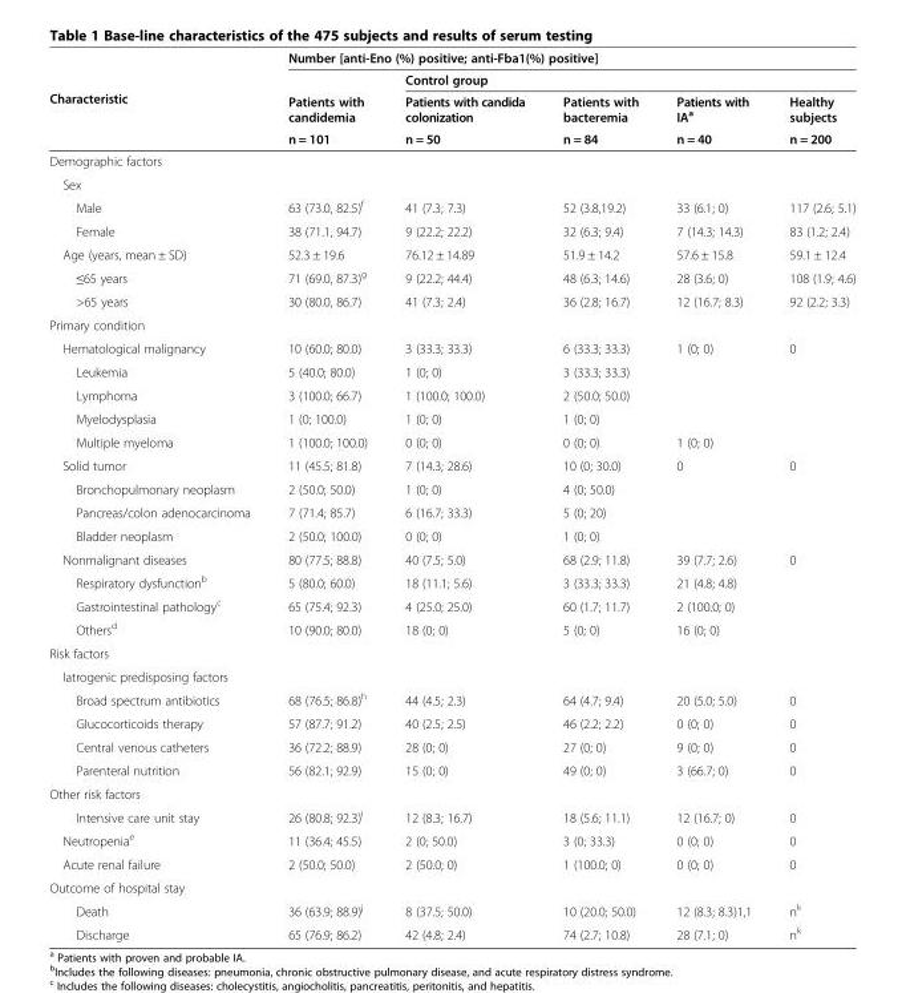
<table><thead><tr><td rowspan="4">Characteristic</td><td colspan="5">Number [anti-Eno (%) positive; anti-Fba1(%) positive]</td></tr><tr><td rowspan="3">Patients with candidemia n = 101</td><td colspan="4">Control group</td></tr><tr><td rowspan="2">Patients with candida colonization n = 50</td><td rowspan="2">Patients with bacteremia n = 84</td><td rowspan="2">Patients with IA<sup>a</sup> n = 40</td><td rowspan="2">Healthy subjects n = 200</td></tr><tr></tr></thead><tbody><tr><td colspan="6">Demographic factors</td></tr><tr><td colspan="6">Sex</td></tr><tr><td>Male</td><td>63 (73.0, 82.5)<sup>f</sup></td><td>41 (7.3; 7.3)</td><td>52 (3.8,19.2)</td><td>33 (6.1; 0)</td><td>117 (2.6; 5.1)</td></tr><tr><td>Female</td><td>38 (71.1, 94.7)</td><td>9 (22.2; 22.2)</td><td>32 (6.3; 9.4)</td><td>7 (14.3; 14.3)</td><td>83 (1.2; 2.4)</td></tr><tr><td>Age (years, mean ± SD)</td><td>52.3 ± 19.6</td><td>76.12 ± 14.89</td><td>51.9 ± 14.2</td><td>57.6 ± 15.8</td><td>59.1 ± 12.4</td></tr><tr><td>≤65 years</td><td>71 (69.0, 87.3)<sup>g</sup></td><td>9 (22.2; 44.4)</td><td>48 (6.3; 14.6)</td><td>28 (3.6; 0)</td><td>108 (1.9; 4.6)</td></tr><tr><td>&gt;65 years</td><td>30 (80.0, 86.7)</td><td>41 (7.3; 2.4)</td><td>36 (2.8; 16.7)</td><td>12 (16.7; 8.3)</td><td>92 (2.2; 3.3)</td></tr><tr><td colspan="6">Primary condition</td></tr><tr><td>Hematological malignancy</td><td>10 (60.0; 80.0)</td><td>3 (33.3; 33.3)</td><td>6 (33.3; 33.3)</td><td>1 (0; 0)</td><td>0</td></tr><tr><td>Leukemia</td><td>5 (40.0; 80.0)</td><td>1 (0; 0)</td><td>3 (33.3; 33.3)</td><td></td><td></td></tr><tr><td>Lymphoma</td><td>3 (100.0; 66.7)</td><td>1 (100.0; 100.0)</td><td>2 (50.0; 50.0)</td><td></td><td></td></tr><tr><td>Myelodysplasia</td><td>1 (0; 100.0)</td><td>1 (0; 0)</td><td>1 (0; 0)</td><td></td><td></td></tr><tr><td>Multiple myeloma</td><td>1 (100.0; 100.0)</td><td>0 (0; 0)</td><td>0 (0; 0)</td><td>1 (0; 0)</td><td></td></tr><tr><td>Solid tumor</td><td>11 (45.5; 81.8)</td><td>7 (14.3; 28.6)</td><td>10 (0; 30.0)</td><td>0</td><td>0</td></tr><tr><td>Bronchopulmonary neoplasm</td><td>2 (50.0; 50.0)</td><td>1 (0; 0)</td><td>4 (0; 50.0)</td><td></td><td></td></tr><tr><td>Pancreas/colon adenocarcinoma</td><td>7 (71.4; 85.7)</td><td>6 (16.7; 33.3)</td><td>5 (0; 20)</td><td></td><td></td></tr><tr><td>Bladder neoplasm</td><td>2 (50.0; 100.0)</td><td>0 (0; 0)</td><td>1 (0; 0)</td><td></td><td></td></tr><tr><td>Nonmalignant diseases</td><td>80 (77.5; 88.8)</td><td>40 (7.5; 5.0)</td><td>68 (2.9; 11.8)</td><td>39 (7.7; 2.6)</td><td>0</td></tr><tr><td>Respiratory dysfunction<sup>b</sup></td><td>5 (80.0; 60.0)</td><td>18 (11.1; 5.6)</td><td>3 (33.3; 33.3)</td><td>21 (4.8; 4.8)</td><td></td></tr><tr><td>Gastrointestinal pathology<sup>c</sup></td><td>65 (75.4; 92.3)</td><td>4 (25.0; 25.0)</td><td>60 (1.7; 11.7)</td><td>2 (100.0; 0)</td><td></td></tr><tr><td>Others<sup>d</sup></td><td>10 (90.0; 80.0)</td><td>18 (0; 0)</td><td>5 (0; 0)</td><td>16 (0; 0)</td><td></td></tr><tr><td colspan="6">Risk factors</td></tr><tr><td colspan="6">Iatrogenic predisposing factors</td></tr><tr><td>Broad spectrum antibiotics</td><td>68 (76.5; 86.8)<sup>h</sup></td><td>44 (4.5; 2.3)</td><td>64 (4.7; 9.4)</td><td>20 (5.0; 5.0)</td><td>0</td></tr><tr><td>Glucocorticoids therapy</td><td>57 (87.7; 91.2)</td><td>40 (2.5; 2.5)</td><td>46 (2.2; 2.2)</td><td>0 (0; 0)</td><td>0</td></tr><tr><td>Central venous catheters</td><td>36 (72.2; 88.9)</td><td>28 (0; 0)</td><td>27 (0; 0)</td><td>9 (0; 0)</td><td>0</td></tr><tr><td>Parenteral nutrition</td><td>56 (82.1; 92.9)</td><td>15 (0; 0)</td><td>49 (0; 0)</td><td>3 (66.7; 0)</td><td>0</td></tr><tr><td colspan="6">Other risk factors</td></tr><tr><td>Intensive care unit stay</td><td>26 (80.8; 92.3)<sup>i</sup></td><td>12 (8.3; 16.7)</td><td>18 (5.6; 11.1)</td><td>12 (16.7; 0)</td><td>0</td></tr><tr><td>Neutropenia<sup>e</sup></td><td>11 (36.4; 45.5)</td><td>2 (0; 50.0)</td><td>3 (0; 33.3)</td><td>0 (0; 0)</td><td>0</td></tr><tr><td>Acute renal failure</td><td>2 (50.0; 50.0)</td><td>2 (50.0; 0)</td><td>1 (100.0; 0)</td><td>0 (0; 0)</td><td>0</td></tr><tr><td colspan="6">Outcome of hospital stay</td></tr><tr><td>Death</td><td>36 (63.9; 88.9)<sup>j</sup></td><td>8 (37.5; 50.0)</td><td>10 (20.0; 50.0)</td><td>12 (8.3; 8.3)1,1</td><td>n<sup>k</sup></td></tr><tr><td>Discharge</td><td>65 (76.9; 86.2)</td><td>42 (4.8; 2.4)</td><td>74 (2.7; 10.8)</td><td>28 (7.1; 0)</td><td>n<sup>k</sup></td></tr></tbody></table>